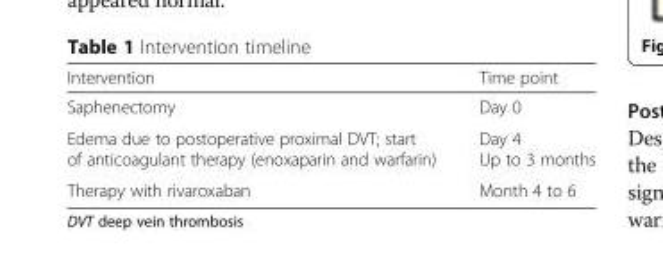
<table><thead><tr><td>Intervention</td><td>Time point</td></tr></thead><tbody><tr><td>Saphenectomy</td><td>Day 0</td></tr><tr><td>Edema due to postoperative proximal DVT; start of anticoagulant therapy (enoxaparin and warfarin)</td><td>Day 4 Up to 3 months</td></tr><tr><td>Therapy with rivaroxaban</td><td>Month 4 to 6</td></tr></tbody></table>